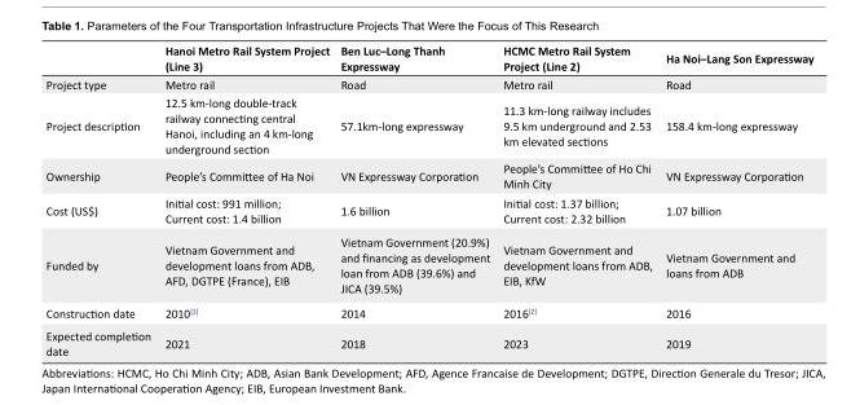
<table><thead><tr><td></td><td>Hanoi Metro Rail System Project (Line 3)</td><td>Ben Luc–Long Thanh Expressway</td><td>HCMC Metro Rail System Project (Line 2)</td><td>Ha Noi–Lang Son Expressway</td></tr></thead><tbody><tr><td>Project type</td><td>Metro rail</td><td>Road</td><td>Metro rail</td><td>Road</td></tr><tr><td>Project description</td><td>12.5 km-long double-track railway connecting central Hanoi, including an 4 km-long underground section</td><td>57.1km-long expressway</td><td>11.3 km-long railway includes 9.5 km underground and 2.53 km elevated sections</td><td>158.4 km-long expressway</td></tr><tr><td>Ownership</td><td>People’s Committee of Ha Noi</td><td>VN Expressway Corporation</td><td>People’s Committee of Ho Chi Minh City</td><td>VN Expressway Corporation</td></tr><tr><td>Cost (US$)</td><td>Initial cost: 991 million; Current cost: 1.4 billion</td><td>1.6 billion</td><td>Initial cost: 1.37 billion; Current cost: 2.32 billion</td><td>1.07 billion</td></tr><tr><td>Funded by</td><td>Vietnam Government and development loans from ADB, AFD, DGTPE (France), EIB</td><td>Vietnam Government (20.9%) and financing as development loan from ADB (39.6%) and JICA (39.5%)</td><td>Vietnam Government and development loans from ADB, EIB, KfW</td><td>Vietnam Government and loans from ADB</td></tr><tr><td>Construction date</td><td>2010<sup>[1]</sup></td><td>2014</td><td>2016<sup>[2]</sup></td><td>2016</td></tr><tr><td>Expected completion date</td><td>2021</td><td>2018</td><td>2023</td><td>2019</td></tr></tbody></table>